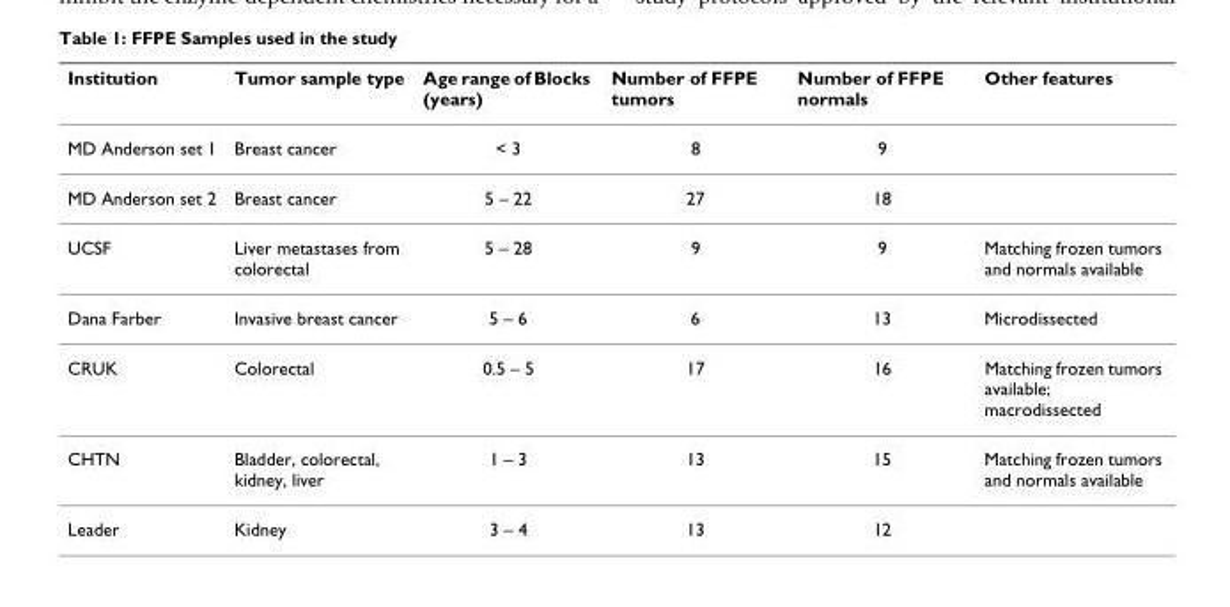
<table><thead><tr><td>Institution</td><td>Tumor sample type</td><td>Age range of Blocks (years)</td><td>Number of FFPE tumors</td><td>Number of FFPE normals</td><td>Other features</td></tr></thead><tbody><tr><td>MD Anderson set 1</td><td>Breast cancer</td><td>&lt; 3</td><td>8</td><td>9</td><td></td></tr><tr><td>MD Anderson set 2</td><td>Breast cancer</td><td>5 – 22</td><td>27</td><td>18</td><td></td></tr><tr><td>UCSF</td><td>Liver metastases from colorectal</td><td>5 – 28</td><td>9</td><td>9</td><td>Matching frozen tumors and normals available</td></tr><tr><td>Dana Farber</td><td>Invasive breast cancer</td><td>5 – 6</td><td>6</td><td>13</td><td>Microdissected</td></tr><tr><td>CRUK</td><td>Colorectal</td><td>0.5 – 5</td><td>17</td><td>16</td><td>Matching frozen tumors available; macrodissected</td></tr><tr><td>CHTN</td><td>Bladder, colorectal, kidney, liver</td><td>1 – 3</td><td>13</td><td>15</td><td>Matching frozen tumors and normals available</td></tr><tr><td>Leader</td><td>Kidney</td><td>3 – 4</td><td>13</td><td>12</td><td></td></tr></tbody></table>